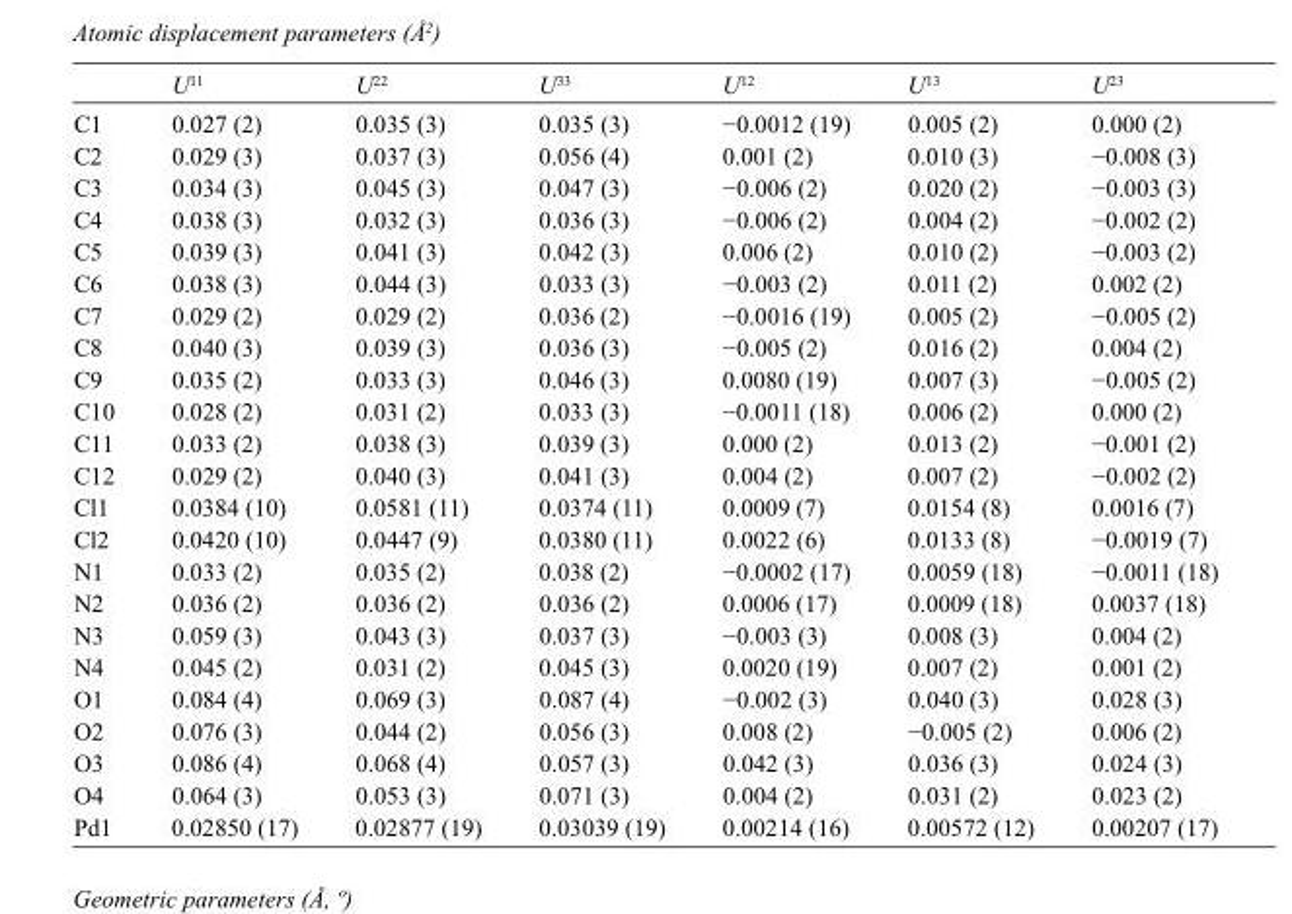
<table><thead><tr><td></td><td>U<sup>11</sup></td><td>U<sup>22</sup></td><td>U<sup>33</sup></td><td>U<sup>12</sup></td><td>U<sup>13</sup></td><td>U<sup>23</sup></td></tr></thead><tbody><tr><td>C1</td><td>0.027 (2)</td><td>0.035 (3)</td><td>0.035 (3)</td><td>−0.0012 (19)</td><td>0.005 (2)</td><td>0.000 (2)</td></tr><tr><td>C2</td><td>0.029 (3)</td><td>0.037 (3)</td><td>0.056 (4)</td><td>0.001 (2)</td><td>0.010 (3)</td><td>−0.008 (3)</td></tr><tr><td>C3</td><td>0.034 (3)</td><td>0.045 (3)</td><td>0.047 (3)</td><td>−0.006 (2)</td><td>0.020 (2)</td><td>−0.003 (3)</td></tr><tr><td>C4</td><td>0.038 (3)</td><td>0.032 (3)</td><td>0.036 (3)</td><td>−0.006 (2)</td><td>0.004 (2)</td><td>−0.002 (2)</td></tr><tr><td>C5</td><td>0.039 (3)</td><td>0.041 (3)</td><td>0.042 (3)</td><td>0.006 (2)</td><td>0.010 (2)</td><td>−0.003 (2)</td></tr><tr><td>C6</td><td>0.038 (3)</td><td>0.044 (3)</td><td>0.033 (3)</td><td>−0.003 (2)</td><td>0.011 (2)</td><td>0.002 (2)</td></tr><tr><td>C7</td><td>0.029 (2)</td><td>0.029 (2)</td><td>0.036 (2)</td><td>−0.0016 (19)</td><td>0.005 (2)</td><td>−0.005 (2)</td></tr><tr><td>C8</td><td>0.040 (3)</td><td>0.039 (3)</td><td>0.036 (3)</td><td>−0.005 (2)</td><td>0.016 (2)</td><td>0.004 (2)</td></tr><tr><td>C9</td><td>0.035 (2)</td><td>0.033 (3)</td><td>0.046 (3)</td><td>0.0080 (19)</td><td>0.007 (3)</td><td>−0.005 (2)</td></tr><tr><td>C10</td><td>0.028 (2)</td><td>0.031 (2)</td><td>0.033 (3)</td><td>−0.0011 (18)</td><td>0.006 (2)</td><td>0.000 (2)</td></tr><tr><td>C11</td><td>0.033 (2)</td><td>0.038 (3)</td><td>0.039 (3)</td><td>0.000 (2)</td><td>0.013 (2)</td><td>−0.001 (2)</td></tr><tr><td>C12</td><td>0.029 (2)</td><td>0.040 (3)</td><td>0.041 (3)</td><td>0.004 (2)</td><td>0.007 (2)</td><td>−0.002 (2)</td></tr><tr><td>Cl1</td><td>0.0384 (10)</td><td>0.0581 (11)</td><td>0.0374 (11)</td><td>0.0009 (7)</td><td>0.0154 (8)</td><td>0.0016 (7)</td></tr><tr><td>Cl2</td><td>0.0420 (10)</td><td>0.0447 (9)</td><td>0.0380 (11)</td><td>0.0022 (6)</td><td>0.0133 (8)</td><td>−0.0019 (7)</td></tr><tr><td>N1</td><td>0.033 (2)</td><td>0.035 (2)</td><td>0.038 (2)</td><td>−0.0002 (17)</td><td>0.0059 (18)</td><td>−0.0011 (18)</td></tr><tr><td>N2</td><td>0.036 (2)</td><td>0.036 (2)</td><td>0.036 (2)</td><td>0.0006 (17)</td><td>0.0009 (18)</td><td>0.0037 (18)</td></tr><tr><td>N3</td><td>0.059 (3)</td><td>0.043 (3)</td><td>0.037 (3)</td><td>−0.003 (3)</td><td>0.008 (3)</td><td>0.004 (2)</td></tr><tr><td>N4</td><td>0.045 (2)</td><td>0.031 (2)</td><td>0.045 (3)</td><td>0.0020 (19)</td><td>0.007 (2)</td><td>0.001 (2)</td></tr><tr><td>O1</td><td>0.084 (4)</td><td>0.069 (3)</td><td>0.087 (4)</td><td>−0.002 (3)</td><td>0.040 (3)</td><td>0.028 (3)</td></tr><tr><td>O2</td><td>0.076 (3)</td><td>0.044 (2)</td><td>0.056 (3)</td><td>0.008 (2)</td><td>−0.005 (2)</td><td>0.006 (2)</td></tr><tr><td>O3</td><td>0.086 (4)</td><td>0.068 (4)</td><td>0.057 (3)</td><td>0.042 (3)</td><td>0.036 (3)</td><td>0.024 (3)</td></tr><tr><td>O4</td><td>0.064 (3)</td><td>0.053 (3)</td><td>0.071 (3)</td><td>0.004 (2)</td><td>0.031 (2)</td><td>0.023 (2)</td></tr><tr><td>Pd1</td><td>0.02850 (17)</td><td>0.02877 (19)</td><td>0.03039 (19)</td><td>0.00214 (16)</td><td>0.00572 (12)</td><td>0.00207 (17)</td></tr></tbody></table>